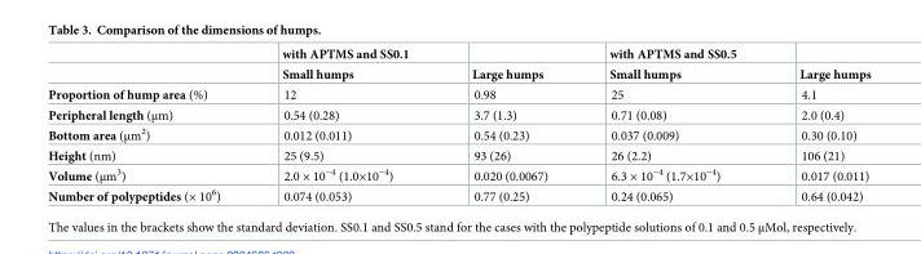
<table><thead><tr><td rowspan="2"></td><td rowspan="2">with APTMS and SS0.1 Small humps</td><td rowspan="2">Large humps</td><td rowspan="2">with APTMS and SS0.5 Small humps</td><td rowspan="2">Large humps</td></tr><tr></tr></thead><tbody><tr><td>Proportion of hump area (%)</td><td>12</td><td>0.98</td><td>25</td><td>4.1</td></tr><tr><td>Peripheral length (μm)</td><td>0.54 (0.28)</td><td>3.7 (1.3)</td><td>0.71 (0.08)</td><td>2.0 (0.4)</td></tr><tr><td>Bottom area (μm<sup>2</sup>)</td><td>0.012 (0.011)</td><td>0.54 (0.23)</td><td>0.037 (0.009)</td><td>0.30 (0.10)</td></tr><tr><td>Height (nm)</td><td>25 (9.5)</td><td>93 (26)</td><td>26 (2.2)</td><td>106 (21)</td></tr><tr><td>Volume (μm<sup>3</sup>)</td><td>2.0 × 10<sup>−4</sup> (1.0×10<sup>−4</sup>)</td><td>0.020 (0.0067)</td><td>6.3 × 10<sup>−4</sup> (1.7×10<sup>−4</sup>)</td><td>0.017 (0.011)</td></tr><tr><td>Number of polypeptides (× 10<sup>6</sup>)</td><td>0.074 (0.053)</td><td>0.77 (0.25)</td><td>0.24 (0.065)</td><td>0.64 (0.042)</td></tr></tbody></table>